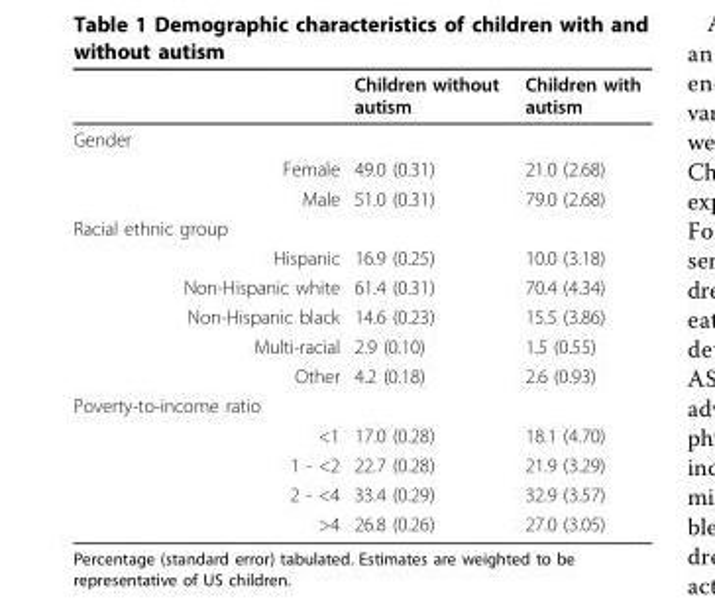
<table><thead><tr><td></td><td>Children without autism</td><td>Children with autism</td></tr></thead><tbody><tr><td colspan="3">Gender</td></tr><tr><td>Female</td><td>49.0 (0.31)</td><td>21.0 (2.68)</td></tr><tr><td>Male</td><td>51.0 (0.31)</td><td>79.0 (2.68)</td></tr><tr><td colspan="3">Racial ethnic group</td></tr><tr><td>Hispanic</td><td>16.9 (0.25)</td><td>10.0 (3.18)</td></tr><tr><td>Non-Hispanic white</td><td>61.4 (0.31)</td><td>70.4 (4.34)</td></tr><tr><td>Non-Hispanic black</td><td>14.6 (0.23)</td><td>15.5 (3.86)</td></tr><tr><td>Multi-racial</td><td>2.9 (0.10)</td><td>1.5 (0.55)</td></tr><tr><td>Other</td><td>4.2 (0.18)</td><td>2.6 (0.93)</td></tr><tr><td colspan="3">Poverty-to-income ratio</td></tr><tr><td>&lt;1</td><td>17.0 (0.28)</td><td>18.1 (4.70)</td></tr><tr><td>1 - &lt;2</td><td>22.7 (0.28)</td><td>21.9 (3.29)</td></tr><tr><td>2 - &lt;4</td><td>33.4 (0.29)</td><td>32.9 (3.57)</td></tr><tr><td>&gt;4</td><td>26.8 (0.26)</td><td>27.0 (3.05)</td></tr></tbody></table>